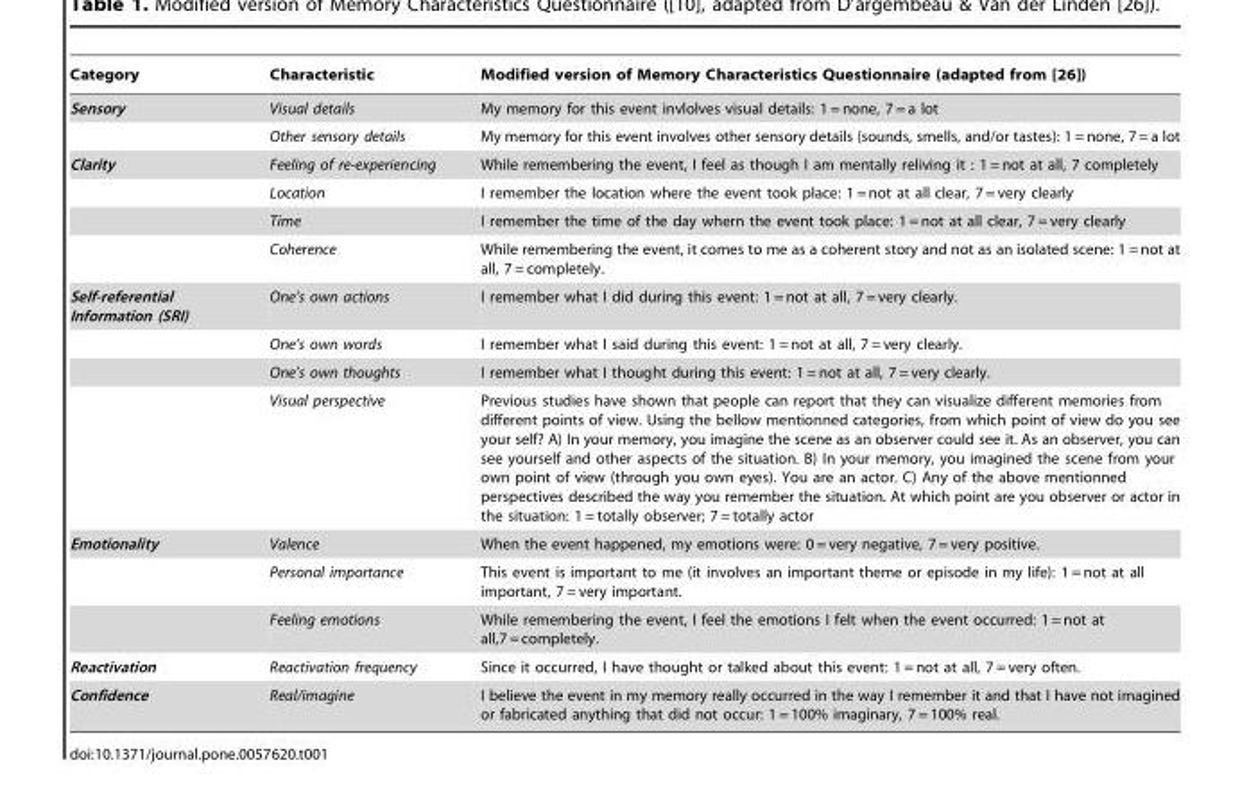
<table><thead><tr><td>Category</td><td>Characteristic</td><td>Modified version of Memory Characteristics Questionnaire (adapted from [26])</td></tr></thead><tbody><tr><td rowspan="2">Sensory</td><td>Visual details</td><td>My memory for this event invlolves visual details: 1 = none, 7 = a lot</td></tr><tr><td>Other sensory details</td><td>My memory for this event involves other sensory details (sounds, smells, and/or tastes): 1 = none, 7 = a lot</td></tr><tr><td rowspan="4">Clarity</td><td>Feeling of re-experiencing</td><td>While remembering the event, I feel as though I am mentally reliving it : 1 = not at all, 7 completely</td></tr><tr><td>Location</td><td>I remember the location where the event took place: 1 = not at all clear, 7 = very clearly</td></tr><tr><td>Time</td><td>I remember the time of the day whern the event took place: 1 = not at all clear, 7 = very clearly</td></tr><tr><td>Coherence</td><td>While remembering the event, it comes to me as a coherent story and not as an isolated scene: 1 = not at all, 7 = completely.</td></tr><tr><td rowspan="4">Self-referential Information (SRI)</td><td>One’s own actions</td><td>I remember what I did during this event: 1 = not at all, 7 = very clearly.</td></tr><tr><td>One’s own words</td><td>I remember what I said during this event: 1 = not at all, 7 = very clearly.</td></tr><tr><td>One’s own thoughts</td><td>I remember what I thought during this event: 1 = not at all, 7 = very clearly.</td></tr><tr><td>Visual perspective</td><td>Previous studies have shown that people can report that they can visualize different memories from different points of view. Using the bellow mentionned categories, from which point of view do you see your self? A) In your memory, you imagine the scene as an observer could see it. As an observer, you can see yourself and other aspects of the situation. B) In your memory, you imagined the scene from your own point of view (through you own eyes). You are an actor. C) Any of the above mentionned perspectives described the way you remember the situation. At which point are you observer or actor in the situation: 1 = totally observer; 7 = totally actor</td></tr><tr><td rowspan="3">Emotionality</td><td>Valence</td><td>When the event happened, my emotions were: 0 = very negative, 7 = very positive.</td></tr><tr><td>Personal importance</td><td>This event is important to me (it involves an important theme or episode in my life): 1 = not at all important, 7 = very important.</td></tr><tr><td>Feeling emotions</td><td>While remembering the event, I feel the emotions I felt when the event occurred: 1 = not at all,7 = completely.</td></tr><tr><td>Reactivation</td><td>Reactivation frequency</td><td>Since it occurred, I have thought or talked about this event: 1 = not at all, 7 = very often.</td></tr><tr><td>Confidence</td><td>Real/imagine</td><td>I believe the event in my memory really occurred in the way I remember it and that I have not imagined or fabricated anything that did not occur: 1 = 100% imaginary, 7 = 100% real.</td></tr></tbody></table>